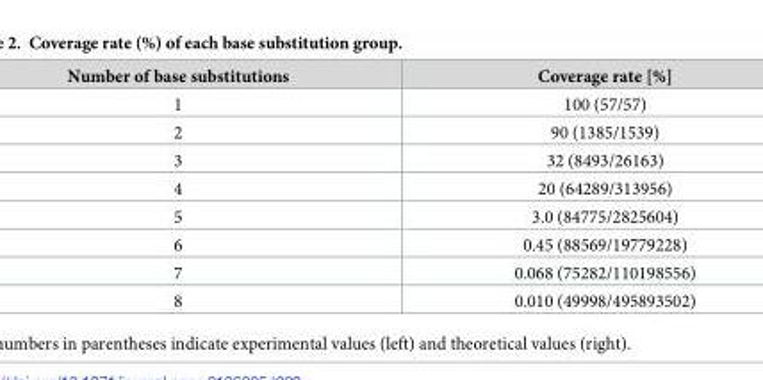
<table><thead><tr><td>Number of base substitutions</td><td>Coverage rate [%]</td></tr></thead><tbody><tr><td>1</td><td>100 (57/57)</td></tr><tr><td>2</td><td>90 (1385/1539)</td></tr><tr><td>3</td><td>32 (8493/26163)</td></tr><tr><td>4</td><td>20 (64289/313956)</td></tr><tr><td>5</td><td>3.0 (84775/2825604)</td></tr><tr><td>6</td><td>0.45 (88569/19779228)</td></tr><tr><td>7</td><td>0.068 (75282/110198556)</td></tr><tr><td>8</td><td>0.010 (49998/495893502)</td></tr></tbody></table>